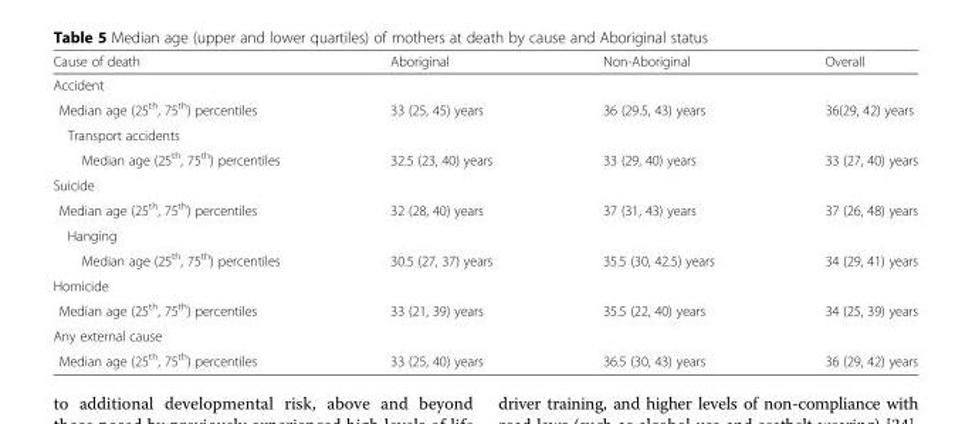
<table><thead><tr><td>Cause of death</td><td>Aboriginal</td><td>Non-Aboriginal</td><td>Overall</td></tr></thead><tbody><tr><td colspan="4">Accident</td></tr><tr><td>Median age (25<sup>th</sup>, 75<sup>th</sup>) percentiles</td><td>33 (25, 45) years</td><td>36 (29.5, 43) years</td><td>36(29, 42) years</td></tr><tr><td colspan="4">Transport accidents</td></tr><tr><td>Median age (25<sup>th</sup>, 75<sup>th</sup>) percentiles</td><td>32.5 (23, 40) years</td><td>33 (29, 40) years</td><td>33 (27, 40) years</td></tr><tr><td colspan="4">Suicide</td></tr><tr><td>Median age (25<sup>th</sup>, 75<sup>th</sup>) percentiles</td><td>32 (28, 40) years</td><td>37 (31, 43) years</td><td>37 (26, 48) years</td></tr><tr><td colspan="4">Hanging</td></tr><tr><td>Median age (25<sup>th</sup>, 75<sup>th</sup>) percentiles</td><td>30.5 (27, 37) years</td><td>35.5 (30, 42.5) years</td><td>34 (29, 41) years</td></tr><tr><td colspan="4">Homicide</td></tr><tr><td>Median age (25<sup>th</sup>, 75<sup>th</sup>) percentiles</td><td>33 (21, 39) years</td><td>35.5 (22, 40) years</td><td>34 (25, 39) years</td></tr><tr><td colspan="4">Any external cause</td></tr><tr><td>Median age (25<sup>th</sup>, 75<sup>th</sup>) percentiles</td><td>33 (25, 40) years</td><td>36.5 (30, 43) years</td><td>36 (29, 42) years</td></tr></tbody></table>